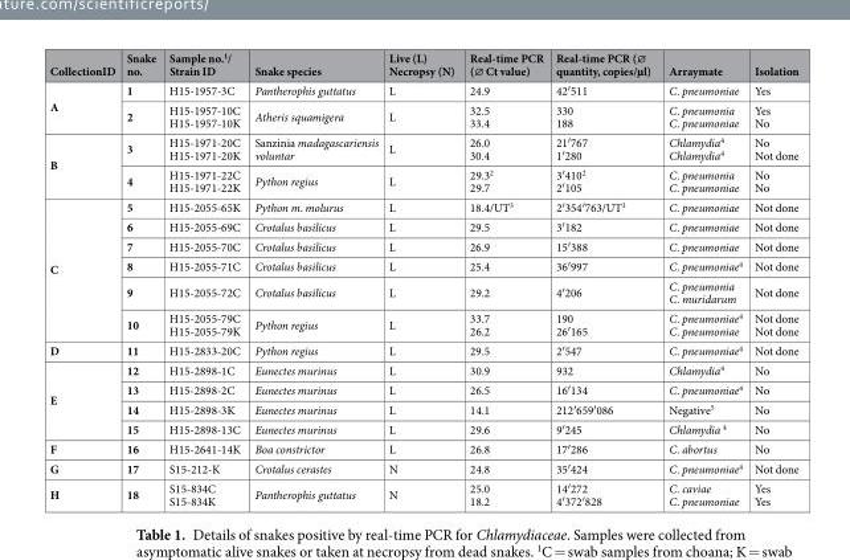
<table><thead><tr><td>CollectionID</td><td>Snake no.</td><td>Sample no.<sup>1</sup>/ Strain ID</td><td>Snake species</td><td>Live (L) Necropsy (N)</td><td>Real-time PCR (∅ Ct value)</td><td>Real-time PCR (∅ quantity, copies/µl)</td><td>Arraymate</td><td>Isolation</td></tr></thead><tbody><tr><td rowspan="2">A</td><td>1</td><td>H15-1957-3C</td><td>Pantherophis guttatus</td><td>L</td><td>24.9</td><td>42′511</td><td>C. pneumoniae</td><td>Yes</td></tr><tr><td>2</td><td>H15-1957-10C H15-1957-10K</td><td>Atheris squamigera</td><td>L</td><td>32.5 33.4</td><td>330 188</td><td>C. pneumonia C. pneumoniae</td><td>Yes No</td></tr><tr><td rowspan="2">B</td><td>3</td><td>H15-1971-20C H15-1971-20K</td><td>Sanzinia madagascariensis voluntar</td><td>L</td><td>26.0 30.4</td><td>21′767 1′280</td><td>Chlamydia<sup>4</sup> Chlamydia<sup>4</sup></td><td>No Not done</td></tr><tr><td>4</td><td>H15-1971-22C H15-1971-22K</td><td>Python regius</td><td>L</td><td>29.3<sup>2</sup> 29.7</td><td>3′410<sup>2</sup> 2′105</td><td>C. pneumonia C. pneumoniae</td><td>No No</td></tr><tr><td rowspan="6">C</td><td>5</td><td>H15-2055-65K</td><td>Python m. molurus</td><td>L</td><td>18.4/UT<sup>3</sup></td><td>2′354′763/UT<sup>3</sup></td><td>C. pneumoniae</td><td>Not done</td></tr><tr><td>6</td><td>H15-2055-69C</td><td>Crotalus basilicus</td><td>L</td><td>29.5</td><td>3′182</td><td>C. pneumoniae</td><td>Not done</td></tr><tr><td>7</td><td>H15-2055-70C</td><td>Crotalus basilicus</td><td>L</td><td>26.9</td><td>15′388</td><td>C. pneumoniae</td><td>Not done</td></tr><tr><td>8</td><td>H15-2055-71C</td><td>Crotalus basilicus</td><td>L</td><td>25.4</td><td>36′997</td><td>C. pneumoniae<sup>4</sup></td><td>Not done</td></tr><tr><td>9</td><td>H15-2055-72C</td><td>Crotalus basilicus</td><td>L</td><td>29.2</td><td>4′206</td><td>C. pneumonia C. muridarum</td><td>Not done</td></tr><tr><td>10</td><td>H15-2055-79C H15-2055-79K</td><td>Python regius</td><td>L</td><td>33.7 26.2</td><td>190 26′165</td><td>C. pneumoniae<sup>4</sup> C. pneumoniae</td><td>Not done Not done</td></tr><tr><td>D</td><td>11</td><td>H15-2833-20C</td><td>Python regius</td><td>L</td><td>29.5</td><td>2′547</td><td>C. pneumoniae<sup>4</sup></td><td>Not done</td></tr><tr><td rowspan="4">E</td><td>12</td><td>H15-2898-1C</td><td>Eunectes murinus</td><td>L</td><td>30.9</td><td>932</td><td>Chlamydia<sup>4</sup></td><td>No</td></tr><tr><td>13</td><td>H15-2898-2C</td><td>Eunectes murinus</td><td>L</td><td>26.5</td><td>16′134</td><td>C. pneumoniae<sup>4</sup></td><td>No</td></tr><tr><td>14</td><td>H15-2898-3K</td><td>Eunectes murinus</td><td>L</td><td>14.1</td><td>212′659′086</td><td>Negative<sup>5</sup></td><td>No</td></tr><tr><td>15</td><td>H15-2898-13C</td><td>Eunectes murinus</td><td>L</td><td>29.6</td><td>9′245</td><td>Chlamydia <sup>4</sup></td><td>No</td></tr><tr><td>F</td><td>16</td><td>H15-2641-14K</td><td>Boa constrictor</td><td>L</td><td>26.8</td><td>17′286</td><td>C. abortus</td><td>No</td></tr><tr><td>G</td><td>17</td><td>S15-212-K</td><td>Crotalus cerastes</td><td>N</td><td>24.8</td><td>35′424</td><td>C. pneumoniae<sup>4</sup></td><td>Not done</td></tr><tr><td>H</td><td>18</td><td>S15-834C S15-834K</td><td>Pantherophis guttatus</td><td>N</td><td>25.0 18.2</td><td>14′272 4′372′828</td><td>C. caviae C. pneumoniae</td><td>Yes Yes</td></tr></tbody></table>